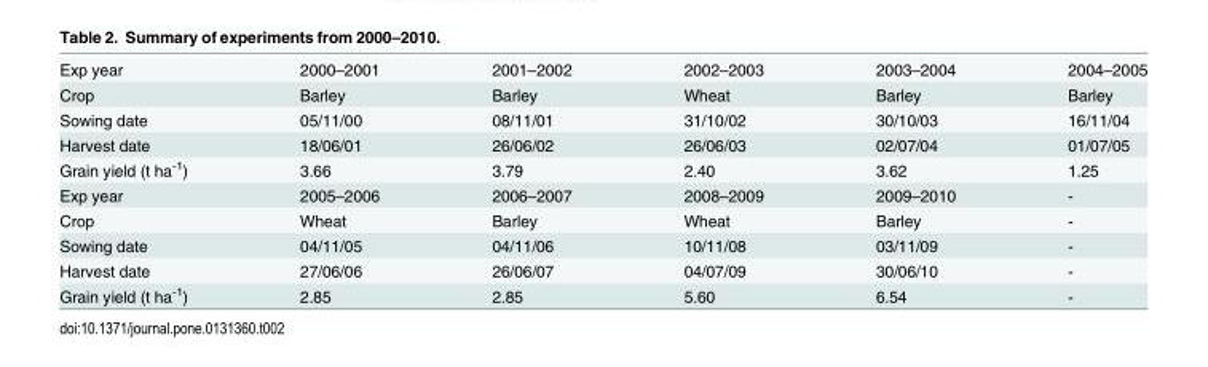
<table><tbody><tr><td>Exp year</td><td>2000–2001</td><td>2001–2002</td><td>2002–2003</td><td>2003–2004</td><td>2004–2005</td></tr><tr><td>Crop</td><td>Barley</td><td>Barley</td><td>Wheat</td><td>Barley</td><td>Barley</td></tr><tr><td>Sowing date</td><td>05/11/00</td><td>08/11/01</td><td>31/10/02</td><td>30/10/03</td><td>16/11/04</td></tr><tr><td>Harvest date</td><td>18/06/01</td><td>26/06/02</td><td>26/06/03</td><td>02/07/04</td><td>01/07/05</td></tr><tr><td>Grain yield (t ha<sup>-1</sup>)</td><td>3.66</td><td>3.79</td><td>2.40</td><td>3.62</td><td>1.25</td></tr><tr><td>Exp year</td><td>2005–2006</td><td>2006–2007</td><td>2008–2009</td><td>2009–2010</td><td>-</td></tr><tr><td>Crop</td><td>Wheat</td><td>Barley</td><td>Wheat</td><td>Barley</td><td>-</td></tr><tr><td>Sowing date</td><td>04/11/05</td><td>04/11/06</td><td>10/11/08</td><td>03/11/09</td><td>-</td></tr><tr><td>Harvest date</td><td>27/06/06</td><td>26/06/07</td><td>04/07/09</td><td>30/06/10</td><td>-</td></tr><tr><td>Grain yield (t ha<sup>-1</sup>)</td><td>2.85</td><td>2.85</td><td>5.60</td><td>6.54</td><td>-</td></tr></tbody></table>